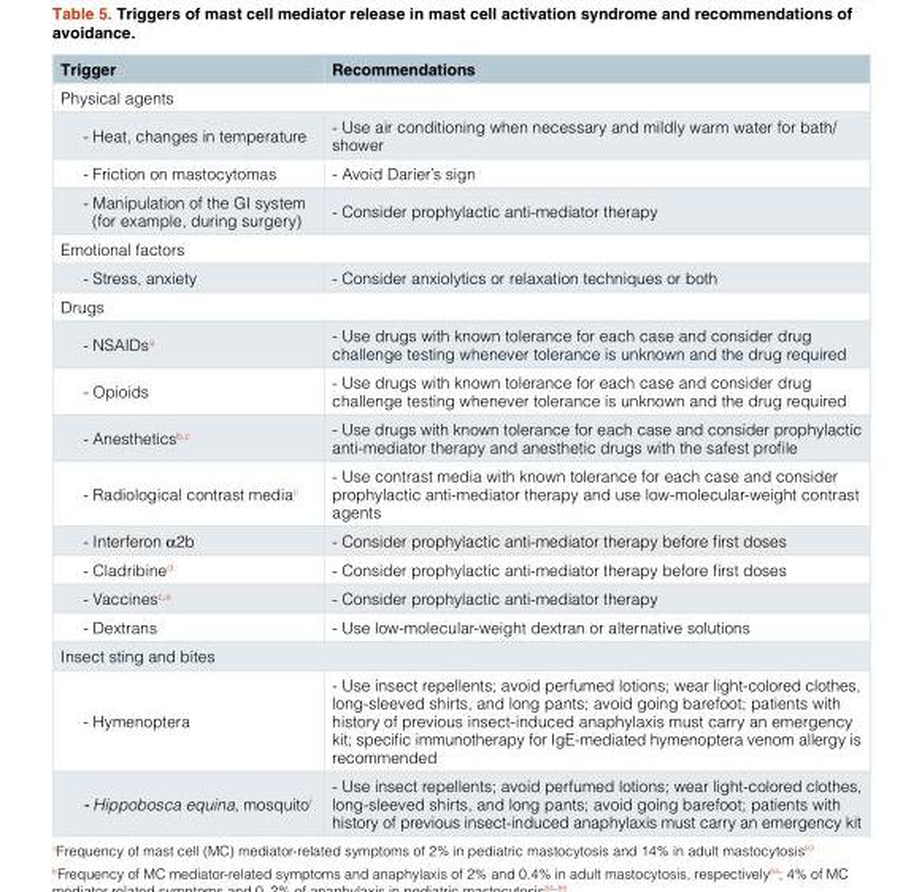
<table><thead><tr><td>Trigger</td><td>Recommendations</td></tr></thead><tbody><tr><td colspan="2">Physical agents</td></tr><tr><td>- Heat, changes in temperature</td><td>- Use air conditioning when necessary and mildly warm water for bath/ shower</td></tr><tr><td>- Friction on mastocytomas</td><td>- Avoid Darier’s sign</td></tr><tr><td>- Manipulation of the GI system (for example, during surgery)</td><td>- Consider prophylactic anti-mediator therapy</td></tr><tr><td colspan="2">Emotional factors</td></tr><tr><td>- Stress, anxiety</td><td>- Consider anxiolytics or relaxation techniques or both</td></tr><tr><td colspan="2">Drugs</td></tr><tr><td>- NSAIDs<sup>a</sup></td><td>- Use drugs with known tolerance for each case and consider drug challenge testing whenever tolerance is unknown and the drug required</td></tr><tr><td>- Opioids</td><td>- Use drugs with known tolerance for each case and consider drug challenge testing whenever tolerance is unknown and the drug required</td></tr><tr><td>- Anesthetics<sup>b,c</sup></td><td>- Use drugs with known tolerance for each case and consider prophylactic anti-mediator therapy and anesthetic drugs with the safest profile</td></tr><tr><td>- Radiological contrast media<sup>c</sup></td><td>- Use contrast media with known tolerance for each case and consider prophylactic anti-mediator therapy and use low-molecular-weight contrast agents</td></tr><tr><td>- Interferon α2b</td><td>- Consider prophylactic anti-mediator therapy before first doses</td></tr><tr><td>- Cladribine<sup>d</sup></td><td>- Consider prophylactic anti-mediator therapy before first doses</td></tr><tr><td>- Vaccines<sup>c,e</sup></td><td>- Consider prophylactic anti-mediator therapy</td></tr><tr><td>- Dextrans</td><td>- Use low-molecular-weight dextran or alternative solutions</td></tr><tr><td colspan="2">Insect sting and bites</td></tr><tr><td>- Hymenoptera</td><td>- Use insect repellents; avoid perfumed lotions; wear light-colored clothes, long-sleeved shirts, and long pants; avoid going barefoot; patients with history of previous insect-induced anaphylaxis must carry an emergency kit; specific immunotherapy for IgE-mediated hymenoptera venom allergy is recommended</td></tr><tr><td>- Hippobosca equina, mosquito<sup>f</sup></td><td>- Use insect repellents; avoid perfumed lotions; wear light-colored clothes, long-sleeved shirts, and long pants; avoid going barefoot; patients with history of previous insect-induced anaphylaxis must carry an emergency kit</td></tr></tbody></table>